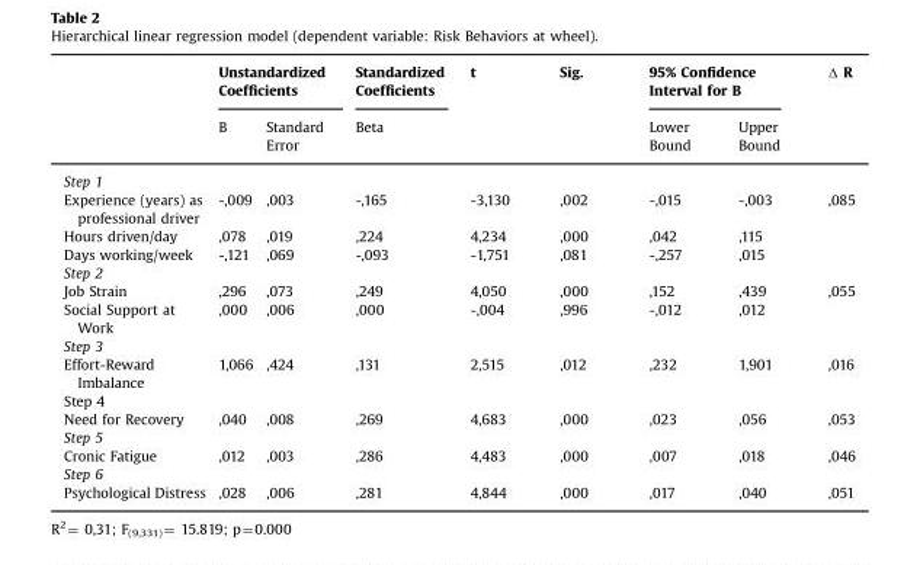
<table><thead><tr><td rowspan="2"></td><td colspan="2">Unstandardized Coefficients</td><td rowspan="2">Standardized Coefficients Beta</td><td rowspan="2">t</td><td rowspan="2">Sig.</td><td colspan="2">95% Confidence Interval for B</td><td rowspan="2">Δ R</td></tr><tr><td>B</td><td>Standard Error</td><td>Lower Bound</td><td>Upper Bound</td></tr></thead><tbody><tr><td colspan="9">Step 1</td></tr><tr><td>Experience (years) as professional driver</td><td>-,009</td><td>,003</td><td>-,165</td><td>-3,130</td><td>,002</td><td>-,015</td><td>-,003</td><td rowspan="3">,085</td></tr><tr><td>Hours driven/day</td><td>,078</td><td>,019</td><td>,224</td><td>4,234</td><td>,000</td><td>,042</td><td>,115</td></tr><tr><td>Days working/week</td><td>-,121</td><td>,069</td><td>-,093</td><td>-1,751</td><td>,081</td><td>-,257</td><td>,015</td></tr><tr><td colspan="9">Step 2</td></tr><tr><td>Job Strain</td><td>,296</td><td>,073</td><td>,249</td><td>4,050</td><td>,000</td><td>,152</td><td>,439</td><td rowspan="2">,055</td></tr><tr><td>Social Support at Work</td><td>,000</td><td>,006</td><td>,000</td><td>-,004</td><td>,996</td><td>-,012</td><td>,012</td></tr><tr><td colspan="9">Step 3</td></tr><tr><td>Effort-Reward Imbalance</td><td>1,066</td><td>,424</td><td>,131</td><td>2,515</td><td>,012</td><td>,232</td><td>1,901</td><td>,016</td></tr><tr><td colspan="9">Step 4</td></tr><tr><td>Need for Recovery</td><td>,040</td><td>,008</td><td>,269</td><td>4,683</td><td>,000</td><td>,023</td><td>,056</td><td>,053</td></tr><tr><td colspan="9">Step 5</td></tr><tr><td>Cronic Fatigue</td><td>,012</td><td>,003</td><td>,286</td><td>4,483</td><td>,000</td><td>,007</td><td>,018</td><td>,046</td></tr><tr><td colspan="9">Step 6</td></tr><tr><td>Psychological Distress</td><td>,028</td><td>,006</td><td>,281</td><td>4,844</td><td>,000</td><td>,017</td><td>,040</td><td>,051</td></tr></tbody></table>